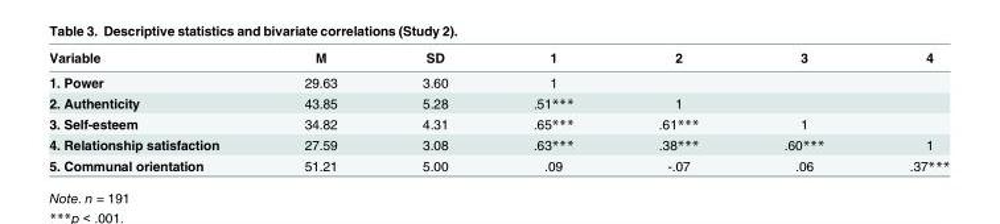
<table><thead><tr><td>Variable</td><td>M</td><td>SD</td><td>1</td><td>2</td><td>3</td><td>4</td></tr></thead><tbody><tr><td>1. Power</td><td>29.63</td><td>3.60</td><td>1</td><td></td><td></td><td></td></tr><tr><td>2. Authenticity</td><td>43.85</td><td>5.28</td><td>.51***</td><td>1</td><td></td><td></td></tr><tr><td>3. Self-esteem</td><td>34.82</td><td>4.31</td><td>.65***</td><td>.61***</td><td>1</td><td></td></tr><tr><td>4. Relationship satisfaction</td><td>27.59</td><td>3.08</td><td>.63***</td><td>.38***</td><td>.60***</td><td>1</td></tr><tr><td>5. Communal orientation</td><td>51.21</td><td>5.00</td><td>.09</td><td>-.07</td><td>.06</td><td>.37***</td></tr></tbody></table>